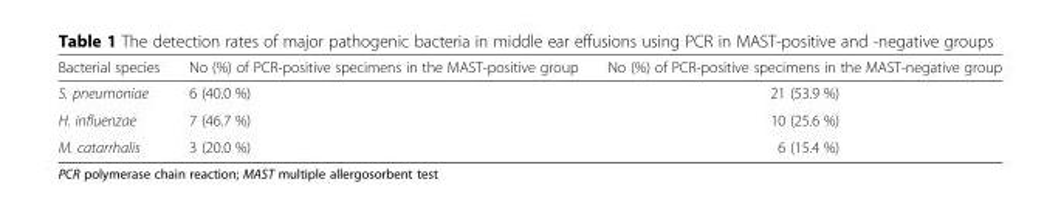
<table><thead><tr><td>Bacterial species</td><td>No (%) of PCR-positive specimens in the MAST-positive group</td><td>No (%) of PCR-positive specimens in the MAST-negative group</td></tr></thead><tbody><tr><td>S. pneumoniae</td><td>6 (40.0 %)</td><td>21 (53.9 %)</td></tr><tr><td>H. influenzae</td><td>7 (46.7 %)</td><td>10 (25.6 %)</td></tr><tr><td>M. catarrhalis</td><td>3 (20.0 %)</td><td>6 (15.4 %)</td></tr></tbody></table>